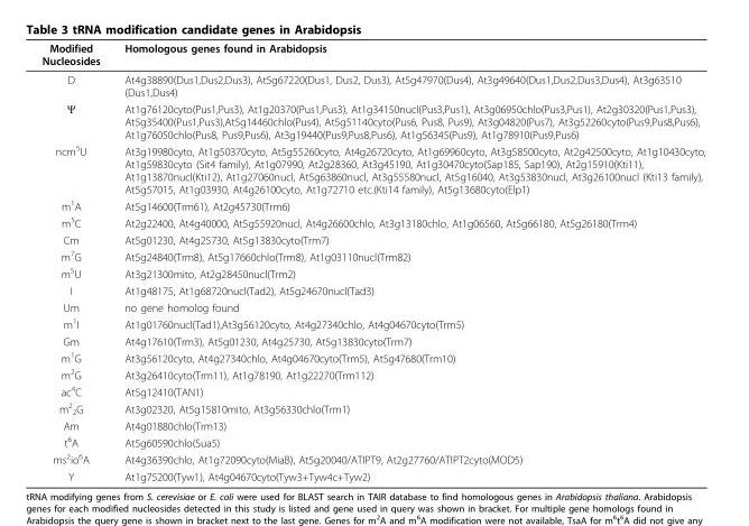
<table><thead><tr><td>Modified Nucleosides</td><td>Homologous genes found in Arabidopsis</td></tr></thead><tbody><tr><td>D</td><td>At4g38890(Dus1,Dus2,Dus3), At5g67220(Dus1, Dus2, Dus3), At5g47970(Dus4), At3g49640(Dus1,Dus2,Dus3,Dus4), At3g63510 (Dus1,Dus4)</td></tr><tr><td>Ψ</td><td>At1g76120cyto(Pus1,Pus3), At1g20370(Pus1,Pus3), At1g34150nucl(Pus3,Pus1), At3g06950chlo(Pus3,Pus1), At2g30320(Pus1,Pus3), At5g35400(Pus1,Pus3),At5g14460chlo(Pus4), At5g51140cyto(Pus6, Pus8, Pus9), At3g04820(Pus7), At3g52260cyto(Pus9,Pus8,Pus6), At1g76050chlo(Pus8, Pus9,Pus6), At3g19440(Pus9,Pus8,Pus6), At1g56345(Pus9), At1g78910(Pus9,Pus6)</td></tr><tr><td>ncm<sup>5</sup>U</td><td>At3g19980cyto, At1g50370cyto, At5g55260cyto, At4g26720cyto, At1g69960cyto, At3g58500cyto, At2g42500cyto, At1g10430cyto, At1g59830cyto (Sit4 family), At1g07990, At2g28360, At3g45190, At1g30470cyto(Sap185, Sap190), At2g15910(Kti11), At1g13870nucl(Kti12), At1g27060nucl, At5g63860nucl, At3g55580nucl, At5g16040, At3g53830nucl, At3g26100nucl (Kti13 family), At5g57015, At1g03930, At4g26100cyto, At1g72710 etc.(Kti14 family), At5g13680cyto(Elp1)</td></tr><tr><td>m<sup>1</sup>A</td><td>At5g14600(Trm61), At2g45730(Trm6)</td></tr><tr><td>m<sup>5</sup>C</td><td>At2g22400, At4g40000, At5g55920nucl, At4g26600chlo, At3g13180chlo, At1g06560, At5g66180, At5g26180(Trm4)</td></tr><tr><td>Cm</td><td>At5g01230, At4g25730, At5g13830cyto(Trm7)</td></tr><tr><td>m<sup>7</sup>G</td><td>At5g24840(Trm8), At5g17660chlo(Trm8), At1g03110nucl(Trm82)</td></tr><tr><td>m<sup>5</sup>U</td><td>At3g21300mito, At2g28450nucl(Trm2)</td></tr><tr><td>I</td><td>At1g48175, At1g68720nucl(Tad2), At5g24670nucl(Tad3)</td></tr><tr><td>Um</td><td>no gene homolog found</td></tr><tr><td>m<sup>1</sup>I</td><td>At1g01760nucl(Tad1),At3g56120cyto, At4g27340chlo, At4g04670cyto(Trm5)</td></tr><tr><td>Gm</td><td>At4g17610(Trm3), At5g01230, At4g25730, At5g13830cyto(Trm7)</td></tr><tr><td>m<sup>1</sup>G</td><td>At3g56120cyto, At4g27340chlo, At4g04670cyto(Trm5), At5g47680(Trm10)</td></tr><tr><td>m<sup>2</sup>G</td><td>At3g26410cyto(Trm11), At1g78190, At1g22270(Trm112)</td></tr><tr><td>ac<sup>4</sup>C</td><td>At5g12410(TAN1)</td></tr><tr><td>m<sup>2</sup> <sub>2</sub>G</td><td>At3g02320, At5g15810mito, At3g56330chlo(Trm1)</td></tr><tr><td>Am</td><td>At4g01880chlo(Trm13)</td></tr><tr><td>t<sup>6</sup>A</td><td>At5g60590chlo(Sua5)</td></tr><tr><td>ms<sup>2</sup>io<sup>6</sup>A</td><td>At4g36390chlo, At1g72090cyto(MiaB), At5g20040/ATIPT9, At2g27760/ATIPT2cyto(MOD5)</td></tr><tr><td>Y</td><td>At1g75200(Tyw1), At4g04670cyto(Tyw3+Tyw4c+Tyw2)</td></tr></tbody></table>